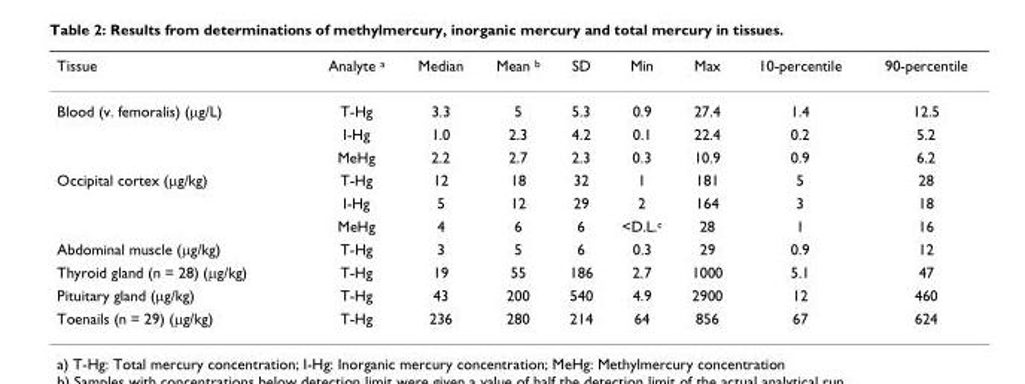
<table><thead><tr><td>Tissue</td><td>Analyte <sup>a</sup></td><td>Median</td><td>Mean <sup>b</sup></td><td>SD</td><td>Min</td><td>Max</td><td>10-percentile</td><td>90-percentile</td></tr></thead><tbody><tr><td rowspan="3">Blood (v. femoralis) (µg/L)</td><td>T-Hg</td><td>3.3</td><td>5</td><td>5.3</td><td>0.9</td><td>27.4</td><td>1.4</td><td>12.5</td></tr><tr><td>I-Hg</td><td>1.0</td><td>2.3</td><td>4.2</td><td>0.1</td><td>22.4</td><td>0.2</td><td>5.2</td></tr><tr><td>MeHg</td><td>2.2</td><td>2.7</td><td>2.3</td><td>0.3</td><td>10.9</td><td>0.9</td><td>6.2</td></tr><tr><td rowspan="3">Occipital cortex (µg/kg)</td><td>T-Hg</td><td>12</td><td>18</td><td>32</td><td>1</td><td>181</td><td>5</td><td>28</td></tr><tr><td>I-Hg</td><td>5</td><td>12</td><td>29</td><td>2</td><td>164</td><td>3</td><td>18</td></tr><tr><td>MeHg</td><td>4</td><td>6</td><td>6</td><td>&lt;D.L.<sup>c</sup></td><td>28</td><td>1</td><td>16</td></tr><tr><td>Abdominal muscle (µg/kg)</td><td>T-Hg</td><td>3</td><td>5</td><td>6</td><td>0.3</td><td>29</td><td>0.9</td><td>12</td></tr><tr><td>Thyroid gland (n = 28) (µg/kg)</td><td>T-Hg</td><td>19</td><td>55</td><td>186</td><td>2.7</td><td>1000</td><td>5.1</td><td>47</td></tr><tr><td>Pituitary gland (µg/kg)</td><td>T-Hg</td><td>43</td><td>200</td><td>540</td><td>4.9</td><td>2900</td><td>12</td><td>460</td></tr><tr><td>Toenails (n = 29) (µg/kg)</td><td>T-Hg</td><td>236</td><td>280</td><td>214</td><td>64</td><td>856</td><td>67</td><td>624</td></tr></tbody></table>